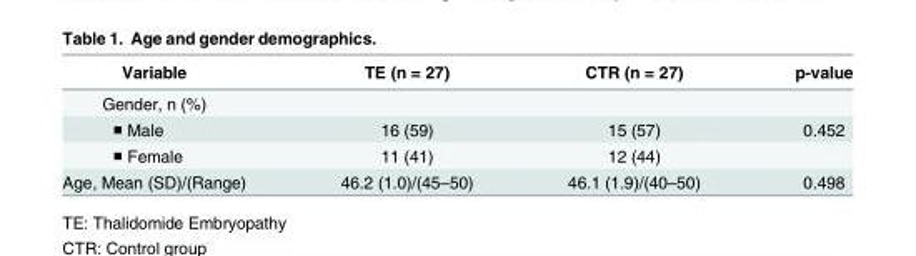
<table><thead><tr><td>Variable</td><td>TE (n = 27)</td><td>CTR (n = 27)</td><td>p-value</td></tr></thead><tbody><tr><td colspan="4">Gender, n (%)</td></tr><tr><td>■ Male</td><td>16 (59)</td><td>15 (57)</td><td>0.452</td></tr><tr><td>■ Female</td><td>11 (41)</td><td>12 (44)</td><td></td></tr><tr><td>Age, Mean (SD)/(Range)</td><td>46.2 (1.0)/(45–50)</td><td>46.1 (1.9)/(40–50)</td><td>0.498</td></tr></tbody></table>